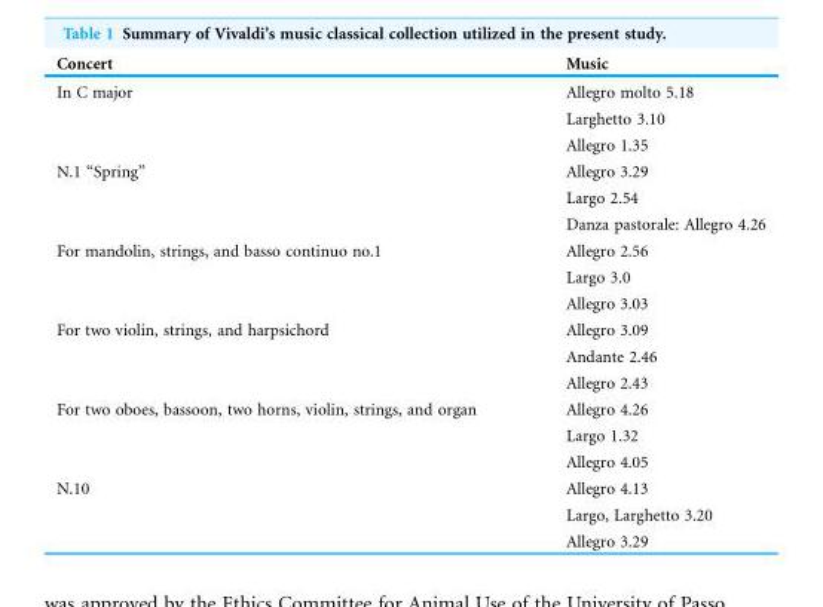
<table><thead><tr><td>Concert</td><td>Music</td></tr></thead><tbody><tr><td rowspan="3">In C major</td><td>Allegro molto 5.18</td></tr><tr><td>Larghetto 3.10</td></tr><tr><td>Allegro 1.35</td></tr><tr><td rowspan="3">N.1 “Spring”</td><td>Allegro 3.29</td></tr><tr><td>Largo 2.54</td></tr><tr><td>Danza pastorale: Allegro 4.26</td></tr><tr><td rowspan="3">For mandolin, strings, and basso continuo no.1</td><td>Allegro 2.56</td></tr><tr><td>Largo 3.0</td></tr><tr><td>Allegro 3.03</td></tr><tr><td rowspan="3">For two violin, strings, and harpsichord</td><td>Allegro 3.09</td></tr><tr><td>Andante 2.46</td></tr><tr><td>Allegro 2.43</td></tr><tr><td rowspan="3">For two oboes, bassoon, two horns, violin, strings, and organ</td><td>Allegro 4.26</td></tr><tr><td>Largo 1.32</td></tr><tr><td>Allegro 4.05</td></tr><tr><td rowspan="3">N.10</td><td>Allegro 4.13</td></tr><tr><td>Largo, Larghetto 3.20</td></tr><tr><td>Allegro 3.29</td></tr></tbody></table>